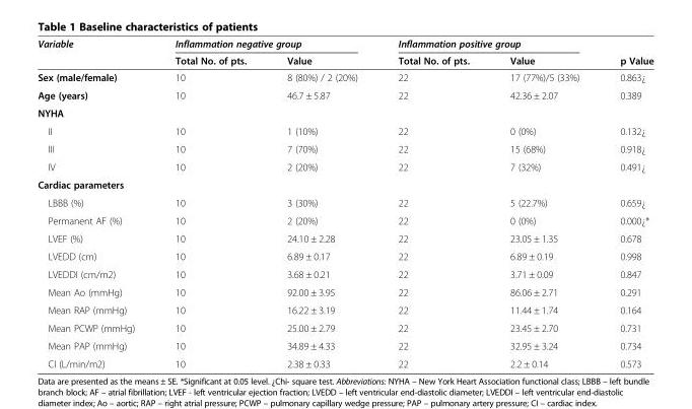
<table><thead><tr><td rowspan="2">Variable</td><td colspan="2">Inflammation negative group</td><td colspan="2">Inflammation positive group</td><td rowspan="2">p Value</td></tr><tr><td>Total No. of pts.</td><td>Value</td><td>Total No. of pts.</td><td>Value</td></tr></thead><tbody><tr><td>Sex (male/female)</td><td>10</td><td>8 (80%) / 2 (20%)</td><td>22</td><td>17 (77%)/5 (33%)</td><td>0.863¿</td></tr><tr><td>Age (years)</td><td>10</td><td>46.7 ± 5.87</td><td>22</td><td>42.36 ± 2.07</td><td>0.389</td></tr><tr><td colspan="6">NYHA</td></tr><tr><td>II</td><td>10</td><td>1 (10%)</td><td>22</td><td>0 (0%)</td><td>0.132¿</td></tr><tr><td>III</td><td>10</td><td>7 (70%)</td><td>22</td><td>15 (68%)</td><td>0.918¿</td></tr><tr><td>IV</td><td>10</td><td>2 (20%)</td><td>22</td><td>7 (32%)</td><td>0.491¿</td></tr><tr><td colspan="6">Cardiac parameters</td></tr><tr><td>LBBB (%)</td><td>10</td><td>3 (30%)</td><td>22</td><td>5 (22.7%)</td><td>0.659¿</td></tr><tr><td>Permanent AF (%)</td><td>10</td><td>2 (20%)</td><td>22</td><td>0 (0%)</td><td>0.000¿*</td></tr><tr><td>LVEF (%)</td><td>10</td><td>24.10 ± 2.28</td><td>22</td><td>23.05 ± 1.35</td><td>0.678</td></tr><tr><td>LVEDD (cm)</td><td>10</td><td>6.89 ± 0.17</td><td>22</td><td>6.89 ± 0.19</td><td>0.998</td></tr><tr><td>LVEDDI (cm/m2)</td><td>10</td><td>3.68 ± 0.21</td><td>22</td><td>3.71 ± 0.09</td><td>0.847</td></tr><tr><td>Mean Ao (mmHg)</td><td>10</td><td>92.00 ± 3.95</td><td>22</td><td>86.06 ± 2.71</td><td>0.291</td></tr><tr><td>Mean RAP (mmHg)</td><td>10</td><td>16.22 ± 3.19</td><td>22</td><td>11.44 ± 1.74</td><td>0.164</td></tr><tr><td>Mean PCWP (mmHg)</td><td>10</td><td>25.00 ± 2.79</td><td>22</td><td>23.45 ± 2.70</td><td>0.731</td></tr><tr><td>Mean PAP (mmHg)</td><td>10</td><td>34.89 ± 4.33</td><td>22</td><td>32.95 ± 3.24</td><td>0.734</td></tr><tr><td>CI (L/min/m2)</td><td>10</td><td>2.38 ± 0.33</td><td>22</td><td>2.2 ± 0.14</td><td>0.573</td></tr></tbody></table>